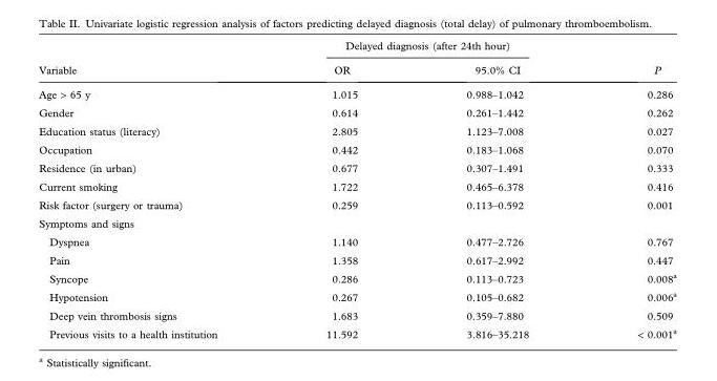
<table><thead><tr><td rowspan="2">Variable</td><td colspan="2">Delayed diagnosis (after 24th hour)</td><td rowspan="2">P</td></tr><tr><td>OR</td><td>95.0% CI</td></tr></thead><tbody><tr><td>Age &gt; 65 y</td><td>1.015</td><td>0.988–1.042</td><td>0.286</td></tr><tr><td>Gender</td><td>0.614</td><td>0.261–1.442</td><td>0.262</td></tr><tr><td>Education status (literacy)</td><td>2.805</td><td>1.123–7.008</td><td>0.027</td></tr><tr><td>Occupation</td><td>0.442</td><td>0.183–1.068</td><td>0.070</td></tr><tr><td>Residence (in urban)</td><td>0.677</td><td>0.307–1.491</td><td>0.333</td></tr><tr><td>Current smoking</td><td>1.722</td><td>0.465–6.378</td><td>0.416</td></tr><tr><td>Risk factor (surgery or trauma)</td><td>0.259</td><td>0.113–0.592</td><td>0.001</td></tr><tr><td colspan="4">Symptoms and signs</td></tr><tr><td>Dyspnea</td><td>1.140</td><td>0.477–2.726</td><td>0.767</td></tr><tr><td>Pain</td><td>1.358</td><td>0.617–2.992</td><td>0.447</td></tr><tr><td>Syncope</td><td>0.286</td><td>0.113–0.723</td><td>0.008<sup>a</sup></td></tr><tr><td>Hypotension</td><td>0.267</td><td>0.105–0.682</td><td>0.006<sup>a</sup></td></tr><tr><td>Deep vein thrombosis signs</td><td>1.683</td><td>0.359–7.880</td><td>0.509</td></tr><tr><td>Previous visits to a health institution</td><td>11.592</td><td>3.816–35.218</td><td>&lt; 0.001<sup>a</sup></td></tr></tbody></table>